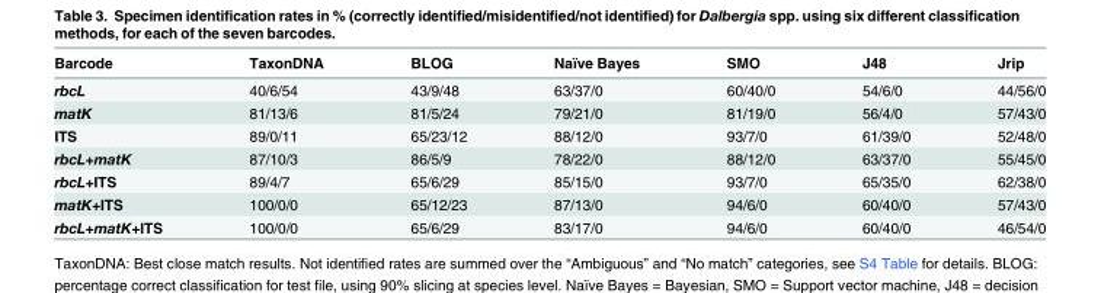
<table><thead><tr><td>Barcode</td><td>TaxonDNA</td><td>BLOG</td><td>Naïve Bayes</td><td>SMO</td><td>J48</td><td>Jrip</td></tr></thead><tbody><tr><td>rbcL</td><td>40/6/54</td><td>43/9/48</td><td>63/37/0</td><td>60/40/0</td><td>54/6/0</td><td>44/56/0</td></tr><tr><td>matK</td><td>81/13/6</td><td>81/5/24</td><td>79/21/0</td><td>81/19/0</td><td>56/4/0</td><td>57/43/0</td></tr><tr><td>ITS</td><td>89/0/11</td><td>65/23/12</td><td>88/12/0</td><td>93/7/0</td><td>61/39/0</td><td>52/48/0</td></tr><tr><td>rbcL+matK</td><td>87/10/3</td><td>86/5/9</td><td>78/22/0</td><td>88/12/0</td><td>63/37/0</td><td>55/45/0</td></tr><tr><td>rbcL+ITS</td><td>89/4/7</td><td>65/6/29</td><td>85/15/0</td><td>93/7/0</td><td>65/35/0</td><td>62/38/0</td></tr><tr><td>matK+ITS</td><td>100/0/0</td><td>65/12/23</td><td>87/13/0</td><td>94/6/0</td><td>60/40/0</td><td>57/43/0</td></tr><tr><td>rbcL+matK+ITS</td><td>100/0/0</td><td>65/6/29</td><td>83/17/0</td><td>94/6/0</td><td>60/40/0</td><td>46/54/0</td></tr></tbody></table>